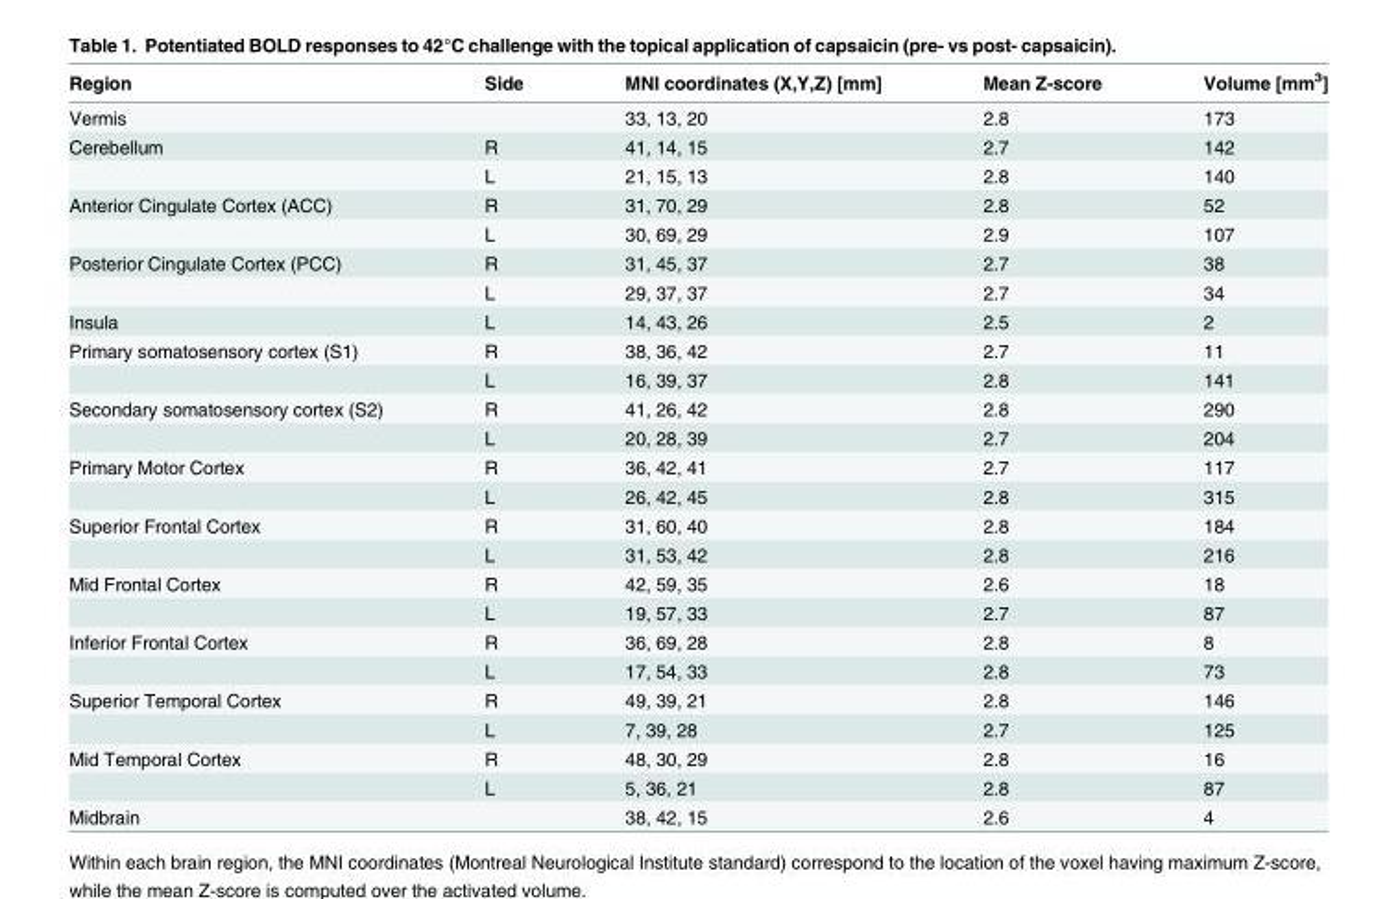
<table><thead><tr><td>Region</td><td>Side</td><td>MNI coordinates (X,Y,Z) [mm]</td><td>Mean Z-score</td><td>Volume [mm<sup>3</sup>]</td></tr></thead><tbody><tr><td>Vermis</td><td></td><td>33, 13, 20</td><td>2.8</td><td>173</td></tr><tr><td rowspan="2">Cerebellum</td><td>R</td><td>41, 14, 15</td><td>2.7</td><td>142</td></tr><tr><td>L</td><td>21, 15, 13</td><td>2.8</td><td>140</td></tr><tr><td rowspan="2">Anterior Cingulate Cortex (ACC)</td><td>R</td><td>31, 70, 29</td><td>2.8</td><td>52</td></tr><tr><td>L</td><td>30, 69, 29</td><td>2.9</td><td>107</td></tr><tr><td rowspan="2">Posterior Cingulate Cortex (PCC)</td><td>R</td><td>31, 45, 37</td><td>2.7</td><td>38</td></tr><tr><td>L</td><td>29, 37, 37</td><td>2.7</td><td>34</td></tr><tr><td>Insula</td><td>L</td><td>14, 43, 26</td><td>2.5</td><td>2</td></tr><tr><td rowspan="2">Primary somatosensory cortex (S1)</td><td>R</td><td>38, 36, 42</td><td>2.7</td><td>11</td></tr><tr><td>L</td><td>16, 39, 37</td><td>2.8</td><td>141</td></tr><tr><td rowspan="2">Secondary somatosensory cortex (S2)</td><td>R</td><td>41, 26, 42</td><td>2.8</td><td>290</td></tr><tr><td>L</td><td>20, 28, 39</td><td>2.7</td><td>204</td></tr><tr><td rowspan="2">Primary Motor Cortex</td><td>R</td><td>36, 42, 41</td><td>2.7</td><td>117</td></tr><tr><td>L</td><td>26, 42, 45</td><td>2.8</td><td>315</td></tr><tr><td rowspan="2">Superior Frontal Cortex</td><td>R</td><td>31, 60, 40</td><td>2.8</td><td>184</td></tr><tr><td>L</td><td>31, 53, 42</td><td>2.8</td><td>216</td></tr><tr><td rowspan="2">Mid Frontal Cortex</td><td>R</td><td>42, 59, 35</td><td>2.6</td><td>18</td></tr><tr><td>L</td><td>19, 57, 33</td><td>2.7</td><td>87</td></tr><tr><td rowspan="2">Inferior Frontal Cortex</td><td>R</td><td>36, 69, 28</td><td>2.8</td><td>8</td></tr><tr><td>L</td><td>17, 54, 33</td><td>2.8</td><td>73</td></tr><tr><td rowspan="2">Superior Temporal Cortex</td><td>R</td><td>49, 39, 21</td><td>2.8</td><td>146</td></tr><tr><td>L</td><td>7, 39, 28</td><td>2.7</td><td>125</td></tr><tr><td rowspan="2">Mid Temporal Cortex</td><td>R</td><td>48, 30, 29</td><td>2.8</td><td>16</td></tr><tr><td>L</td><td>5, 36, 21</td><td>2.8</td><td>87</td></tr><tr><td>Midbrain</td><td></td><td>38, 42, 15</td><td>2.6</td><td>4</td></tr></tbody></table>